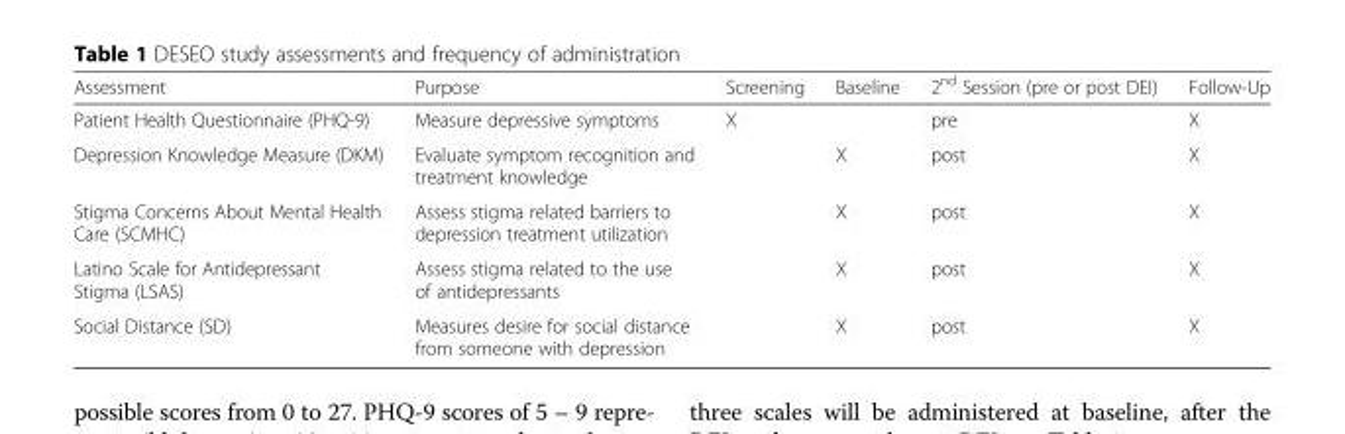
<table><thead><tr><td>Assessment</td><td>Purpose</td><td>Screening</td><td>Baseline</td><td>2<sup>nd</sup> Session (pre or post DEI)</td><td>Follow-Up</td></tr></thead><tbody><tr><td>Patient Health Questionnaire (PHQ-9)</td><td>Measure depressive symptoms</td><td>X</td><td></td><td>pre</td><td>X</td></tr><tr><td>Depression Knowledge Measure (DKM)</td><td>Evaluate symptom recognition and treatment knowledge</td><td></td><td>X</td><td>post</td><td>X</td></tr><tr><td>Stigma Concerns About Mental Health Care (SCMHC)</td><td>Assess stigma related barriers to depression treatment utilization</td><td></td><td>X</td><td>post</td><td>X</td></tr><tr><td>Latino Scale for Antidepressant Stigma (LSAS)</td><td>Assess stigma related to the use of antidepressants</td><td></td><td>X</td><td>post</td><td>X</td></tr><tr><td>Social Distance (SD)</td><td>Measures desire for social distance from someone with depression</td><td></td><td>X</td><td>post</td><td>X</td></tr></tbody></table>